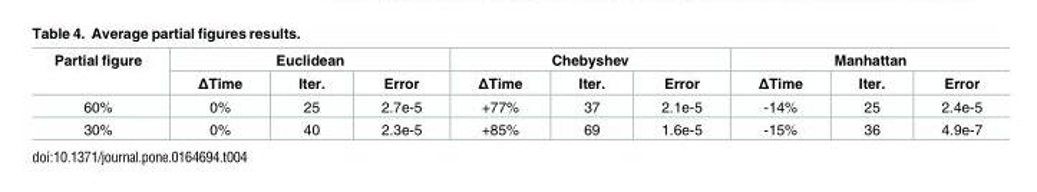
<table><thead><tr><td rowspan="2">Partial figure</td><td colspan="3">Euclidean</td><td colspan="3">Chebyshev</td><td colspan="3">Manhattan</td></tr><tr><td>ΔTime</td><td>Iter.</td><td>Error</td><td>ΔTime</td><td>Iter.</td><td>Error</td><td>ΔTime</td><td>Iter.</td><td>Error</td></tr></thead><tbody><tr><td>60%</td><td>0%</td><td>25</td><td>2.7e-5</td><td>+77%</td><td>37</td><td>2.1e-5</td><td>-14%</td><td>25</td><td>2.4e-5</td></tr><tr><td>30%</td><td>0%</td><td>40</td><td>2.3e-5</td><td>+85%</td><td>69</td><td>1.6e-5</td><td>-15%</td><td>36</td><td>4.9e-7</td></tr></tbody></table>